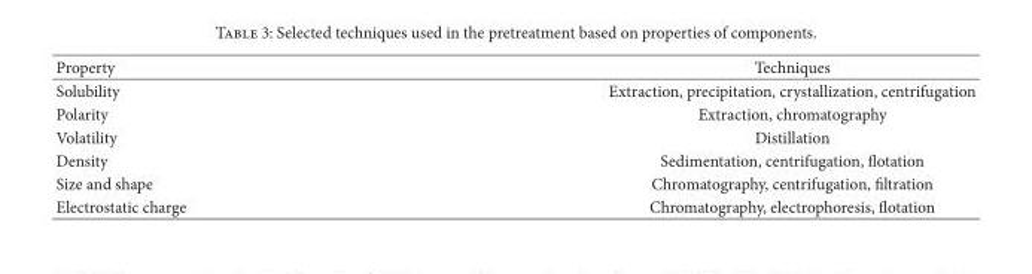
<table><thead><tr><td>Property</td><td>Techniques</td></tr></thead><tbody><tr><td>Solubility</td><td>Extraction, precipitation, crystallization, centrifugation</td></tr><tr><td>Polarity</td><td>Extraction, chromatography</td></tr><tr><td>Volatility</td><td>Distillation</td></tr><tr><td>Density</td><td>Sedimentation, centrifugation, flotation</td></tr><tr><td>Size and shape</td><td>Chromatography, centrifugation, filtration</td></tr><tr><td>Electrostatic charge</td><td>Chromatography, electrophoresis, flotation</td></tr></tbody></table>